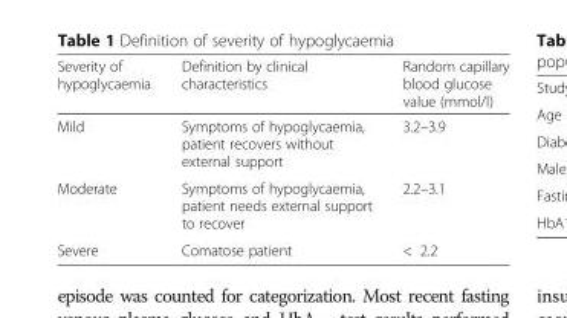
<table><thead><tr><td>Severity of hypoglycaemia</td><td>Definition by clinical characteristics</td><td>Random capillary blood glucose value (mmol/l)</td></tr></thead><tbody><tr><td>Mild</td><td>Symptoms of hypoglycaemia, patient recovers without external support</td><td>3.2–3.9</td></tr><tr><td>Moderate</td><td>Symptoms of hypoglycaemia, patient needs external support to recover</td><td>2.2–3.1</td></tr><tr><td>Severe</td><td>Comatose patient</td><td>&lt; 2.2</td></tr></tbody></table>